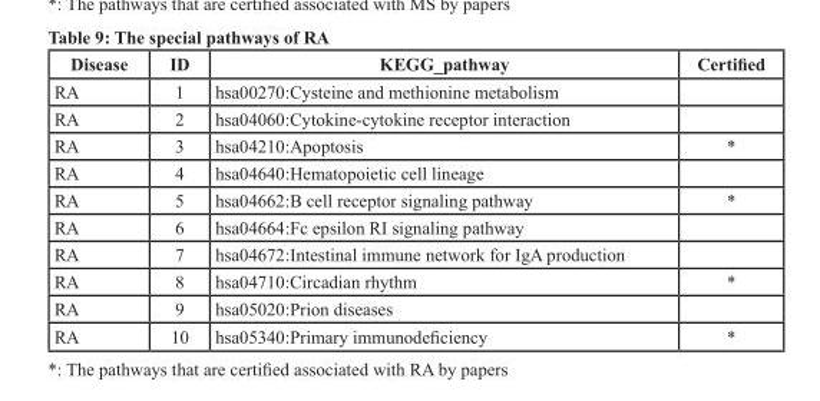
<table><thead><tr><td>Disease</td><td>ID</td><td>KEGG_pathway</td><td>Certified</td></tr></thead><tbody><tr><td>RA</td><td>1</td><td>hsa00270:Cysteine and methionine metabolism</td><td></td></tr><tr><td>RA</td><td>2</td><td>hsa04060:Cytokine-cytokine receptor interaction</td><td></td></tr><tr><td>RA</td><td>3</td><td>hsa04210:Apoptosis</td><td>*</td></tr><tr><td>RA</td><td>4</td><td>hsa04640:Hematopoietic cell lineage</td><td></td></tr><tr><td>RA</td><td>5</td><td>hsa04662:B cell receptor signaling pathway</td><td>*</td></tr><tr><td>RA</td><td>6</td><td>hsa04664:Fc epsilon RI signaling pathway</td><td></td></tr><tr><td>RA</td><td>7</td><td>hsa04672:Intestinal immune network for IgA production</td><td></td></tr><tr><td>RA</td><td>8</td><td>hsa04710:Circadian rhythm</td><td>*</td></tr><tr><td>RA</td><td>9</td><td>hsa05020:Prion diseases</td><td></td></tr><tr><td>RA</td><td>10</td><td>hsa05340:Primary immunodeficiency</td><td>*</td></tr></tbody></table>